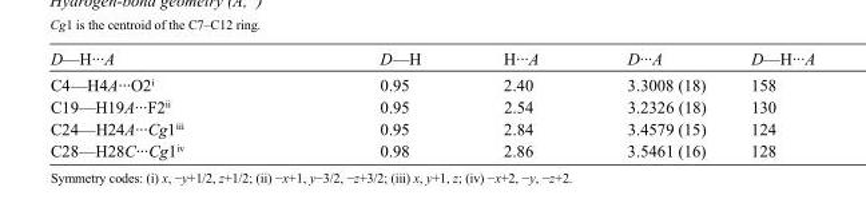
<table><tbody><tr><td>D—H···A</td><td>D—H</td><td>H···A</td><td>D···A</td><td>D—H···A</td></tr><tr><td>C4—H4A···O2<sup>i</sup></td><td>0.95</td><td>2.40</td><td>3.3008 (18)</td><td>158</td></tr><tr><td>C19—H19A···F2<sup>ii</sup></td><td>0.95</td><td>2.54</td><td>3.2326 (18)</td><td>130</td></tr><tr><td>C24—H24A···Cg1<sup>iii</sup></td><td>0.95</td><td>2.84</td><td>3.4579 (15)</td><td>124</td></tr><tr><td>C28—H28C···Cg1<sup>iv</sup></td><td>0.98</td><td>2.86</td><td>3.5461 (16)</td><td>128</td></tr></tbody></table>